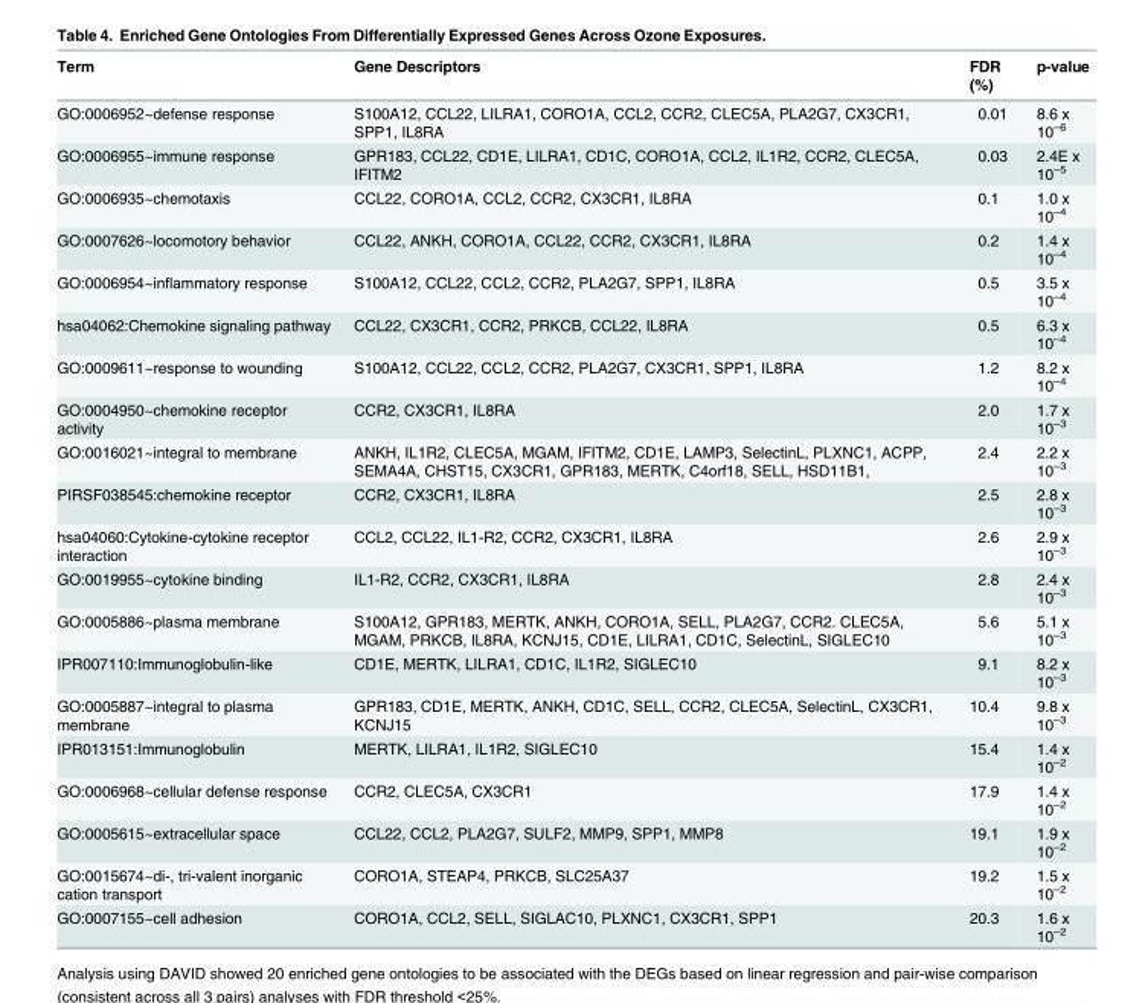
<table><thead><tr><td>Term</td><td>Gene Descriptors</td><td>FDR (%)</td><td>p-value</td></tr></thead><tbody><tr><td>GO:0006952~defense response</td><td>S100A12, CCL22, LILRA1, CORO1A, CCL2, CCR2, CLEC5A, PLA2G7, CX3CR1, SPP1, IL8RA</td><td>0.01</td><td>8.6 x 10<sup>–6</sup></td></tr><tr><td>GO:0006955~immune response</td><td>GPR183, CCL22, CD1E, LILRA1, CD1C, CORO1A, CCL2, IL1R2, CCR2, CLEC5A, IFITM2</td><td>0.03</td><td>2.4E x 10<sup>–5</sup></td></tr><tr><td>GO:0006935~chemotaxis</td><td>CCL22, CORO1A, CCL2, CCR2, CX3CR1, IL8RA</td><td>0.1</td><td>1.0 x 10<sup>–4</sup></td></tr><tr><td>GO:0007626~locomotory behavior</td><td>CCL22, ANKH, CORO1A, CCL22, CCR2, CX3CR1, IL8RA</td><td>0.2</td><td>1.4 x 10<sup>–4</sup></td></tr><tr><td>GO:0006954~inflammatory response</td><td>S100A12, CCL22, CCL2, CCR2, PLA2G7, SPP1, IL8RA</td><td>0.5</td><td>3.5 x 10<sup>–4</sup></td></tr><tr><td>hsa04062:Chemokine signaling pathway</td><td>CCL22, CX3CR1, CCR2, PRKCB, CCL22, IL8RA</td><td>0.5</td><td>6.3 x 10<sup>–4</sup></td></tr><tr><td>GO:0009611~response to wounding</td><td>S100A12, CCL22, CCL2, CCR2, PLA2G7, CX3CR1, SPP1, IL8RA</td><td>1.2</td><td>8.2 x 10<sup>–4</sup></td></tr><tr><td>GO:0004950~chemokine receptor activity</td><td>CCR2, CX3CR1, IL8RA</td><td>2.0</td><td>1.7 x 10<sup>–3</sup></td></tr><tr><td>GO:0016021~integral to membrane</td><td>ANKH, IL1R2, CLEC5A, MGAM, IFITM2, CD1E, LAMP3, SelectinL, PLXNC1, ACPP, SEMA4A, CHST15, CX3CR1, GPR183, MERTK, C4orf18, SELL, HSD11B1,</td><td>2.4</td><td>2.2 x 10<sup>–3</sup></td></tr><tr><td>PIRSF038545:chemokine receptor</td><td>CCR2, CX3CR1, IL8RA</td><td>2.5</td><td>2.8 x 10<sup>–3</sup></td></tr><tr><td>hsa04060:Cytokine-cytokine receptor interaction</td><td>CCL2, CCL22, IL1-R2, CCR2, CX3CR1, IL8RA</td><td>2.6</td><td>2.9 x 10<sup>–3</sup></td></tr><tr><td>GO:0019955~cytokine binding</td><td>IL1-R2, CCR2, CX3CR1, IL8RA</td><td>2.8</td><td>2.4 x 10<sup>–3</sup></td></tr><tr><td>GO:0005886~plasma membrane</td><td>S100A12, GPR183, MERTK, ANKH, CORO1A, SELL, PLA2G7, CCR2. CLEC5A, MGAM, PRKCB, IL8RA, KCNJ15, CD1E, LILRA1, CD1C, SelectinL, SIGLEC10</td><td>5.6</td><td>5.1 x 10<sup>–3</sup></td></tr><tr><td>IPR007110:Immunoglobulin-like</td><td>CD1E, MERTK, LILRA1, CD1C, IL1R2, SIGLEC10</td><td>9.1</td><td>8.2 x 10<sup>–3</sup></td></tr><tr><td>GO:0005887~integral to plasma membrane</td><td>GPR183, CD1E, MERTK, ANKH, CD1C, SELL, CCR2, CLEC5A, SelectinL, CX3CR1, KCNJ15</td><td>10.4</td><td>9.8 x 10<sup>–3</sup></td></tr><tr><td>IPR013151:Immunoglobulin</td><td>MERTK, LILRA1, IL1R2, SIGLEC10</td><td>15.4</td><td>1.4 x 10<sup>–2</sup></td></tr><tr><td>GO:0006968~cellular defense response</td><td>CCR2, CLEC5A, CX3CR1</td><td>17.9</td><td>1.4 x 10<sup>–2</sup></td></tr><tr><td>GO:0005615~extracellular space</td><td>CCL22, CCL2, PLA2G7, SULF2, MMP9, SPP1, MMP8</td><td>19.1</td><td>1.9 x 10<sup>–2</sup></td></tr><tr><td>GO:0015674~di-, tri-valent inorganic cation transport</td><td>CORO1A, STEAP4, PRKCB, SLC25A37</td><td>19.2</td><td>1.5 x 10<sup>–2</sup></td></tr><tr><td>GO:0007155~cell adhesion</td><td>CORO1A, CCL2, SELL, SIGLAC10, PLXNC1, CX3CR1, SPP1</td><td>20.3</td><td>1.6 x 10<sup>–2</sup></td></tr></tbody></table>